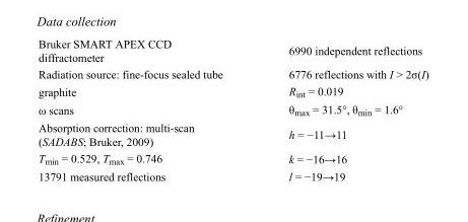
<table><tbody><tr><td>Bruker SMART APEX CCD diffractometer</td><td>6990 independent reflections</td></tr><tr><td>Radiation source: fine-focus sealed tube</td><td>6776 reflections with I &gt; 2σ(I)</td></tr><tr><td>graphite</td><td>R<sub>int</sub> = 0.019</td></tr><tr><td>ω scans</td><td>θ<sub>max</sub> = 31.5°, θ<sub>min</sub> = 1.6°</td></tr><tr><td>Absorption correction: multi-scan (SADABS; Bruker, 2009)</td><td>h = −11→11</td></tr><tr><td>T<sub>min</sub> = 0.529, T<sub>max</sub> = 0.746</td><td>k = −16→16</td></tr><tr><td>13791 measured reflections</td><td>l = −19→19</td></tr></tbody></table>